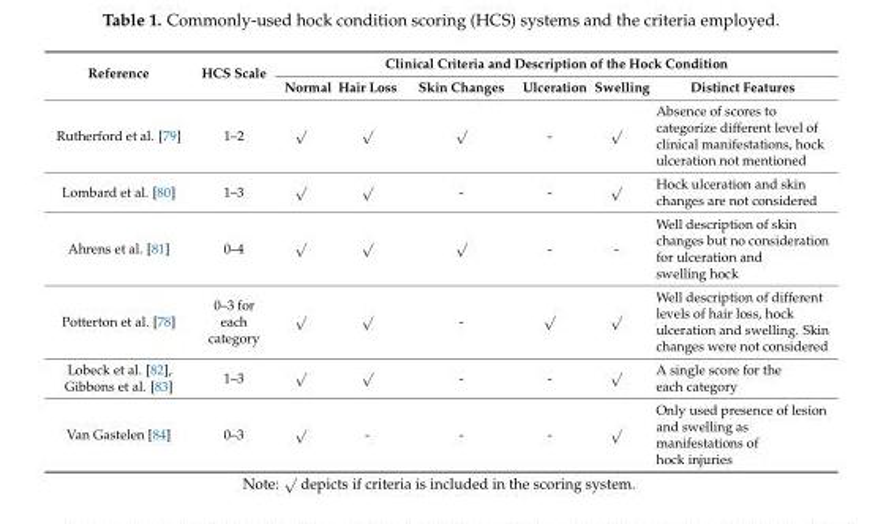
<table><thead><tr><td rowspan="2">Reference</td><td rowspan="2">HCS Scale</td><td colspan="6">Clinical Criteria and Description of the Hock Condition</td></tr><tr><td>Normal</td><td>Hair Loss</td><td>Skin Changes</td><td>Ulceration</td><td>Swelling</td><td>Distinct Features</td></tr></thead><tbody><tr><td>Rutherford et al. [79]</td><td>1–2</td><td>√</td><td>√</td><td>√</td><td>-</td><td>√</td><td>Absence of scores to categorize different level of clinical manifestations, hock ulceration not mentioned</td></tr><tr><td>Lombard et al. [80]</td><td>1–3</td><td>√</td><td>√</td><td>-</td><td>-</td><td>√</td><td>Hock ulceration and skin changes are not considered</td></tr><tr><td>Ahrens et al. [81]</td><td>0–4</td><td>√</td><td>√</td><td>√</td><td>-</td><td>-</td><td>Well description of skin changes but no consideration for ulceration and swelling hock</td></tr><tr><td>Potterton et al. [78]</td><td>0–3 for each category</td><td>√</td><td>√</td><td>-</td><td>√</td><td>√</td><td>Well description of different levels of hair loss, hock ulceration and swelling. Skin changes were not considered</td></tr><tr><td>Lobeck et al. [82], Gibbons et al. [83]</td><td>1–3</td><td>√</td><td>√</td><td>-</td><td>-</td><td>√</td><td>A single score for the each category</td></tr><tr><td>Van Gastelen [84]</td><td>0–3</td><td>√</td><td>-</td><td>-</td><td>-</td><td>√</td><td>Only used presence of lesion and swelling as manifestations of hock injuries</td></tr></tbody></table>